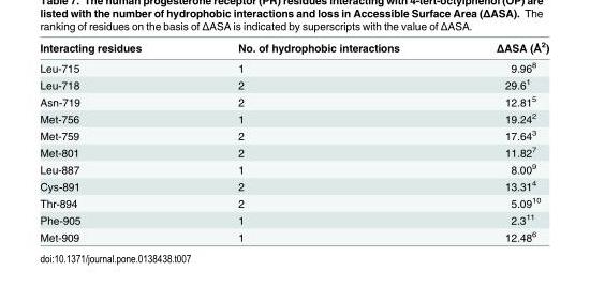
<table><thead><tr><td>Interacting residues</td><td>No. of hydrophobic interactions</td><td>ΔASA (Å<sup>2</sup>)</td></tr></thead><tbody><tr><td>Leu-715</td><td>1</td><td>9.96<sup>8</sup></td></tr><tr><td>Leu-718</td><td>2</td><td>29.6<sup>1</sup></td></tr><tr><td>Asn-719</td><td>2</td><td>12.81<sup>5</sup></td></tr><tr><td>Met-756</td><td>1</td><td>19.24<sup>2</sup></td></tr><tr><td>Met-759</td><td>2</td><td>17.64<sup>3</sup></td></tr><tr><td>Met-801</td><td>2</td><td>11.82<sup>7</sup></td></tr><tr><td>Leu-887</td><td>1</td><td>8.00<sup>9</sup></td></tr><tr><td>Cys-891</td><td>2</td><td>13.31<sup>4</sup></td></tr><tr><td>Thr-894</td><td>2</td><td>5.09<sup>10</sup></td></tr><tr><td>Phe-905</td><td>1</td><td>2.3<sup>11</sup></td></tr><tr><td>Met-909</td><td>1</td><td>12.48<sup>6</sup></td></tr></tbody></table>